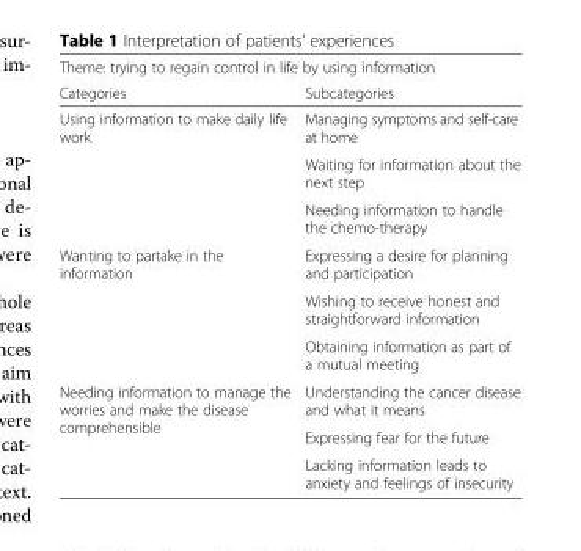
<table><thead><tr><td colspan="2">Theme: trying to regain control in life by using information</td></tr><tr><td>Categories</td><td>Subcategories</td></tr></thead><tbody><tr><td rowspan="3">Using information to make daily life work</td><td>Managing symptoms and self-care at home</td></tr><tr><td>Waiting for information about the next step</td></tr><tr><td>Needing information to handle the chemo-therapy</td></tr><tr><td rowspan="3">Wanting to partake in the information</td><td>Expressing a desire for planning and participation</td></tr><tr><td>Wishing to receive honest and straightforward information</td></tr><tr><td>Obtaining information as part of a mutual meeting</td></tr><tr><td rowspan="3">Needing information to manage the worries and make the disease comprehensible</td><td>Understanding the cancer disease and what it means</td></tr><tr><td>Expressing fear for the future</td></tr><tr><td>Lacking information leads to anxiety and feelings of insecurity</td></tr></tbody></table>